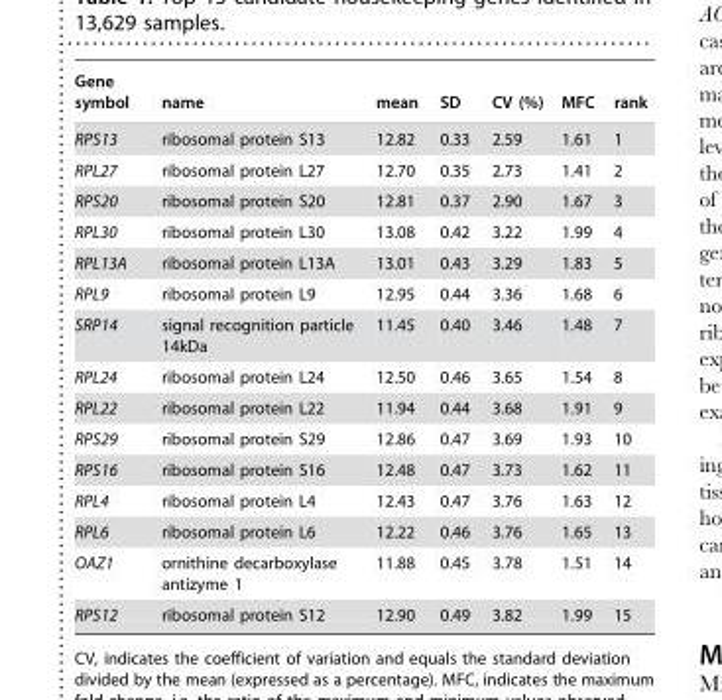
<table><thead><tr><td>Gene symbol</td><td>name</td><td>mean</td><td>SD</td><td>CV (%)</td><td>MFC</td><td>rank</td></tr></thead><tbody><tr><td>RPS13</td><td>ribosomal protein S13</td><td>12.82</td><td>0.33</td><td>2.59</td><td>1.61</td><td>1</td></tr><tr><td>RPL27</td><td>ribosomal protein L27</td><td>12.70</td><td>0.35</td><td>2.73</td><td>1.41</td><td>2</td></tr><tr><td>RPS20</td><td>ribosomal protein S20</td><td>12.81</td><td>0.37</td><td>2.90</td><td>1.67</td><td>3</td></tr><tr><td>RPL30</td><td>ribosomal protein L30</td><td>13.08</td><td>0.42</td><td>3.22</td><td>1.99</td><td>4</td></tr><tr><td>RPL13A</td><td>ribosomal protein L13A</td><td>13.01</td><td>0.43</td><td>3.29</td><td>1.83</td><td>5</td></tr><tr><td>RPL9</td><td>ribosomal protein L9</td><td>12.95</td><td>0.44</td><td>3.36</td><td>1.68</td><td>6</td></tr><tr><td>SRP14</td><td>signal recognition particle 14kDa</td><td>11.45</td><td>0.40</td><td>3.46</td><td>1.48</td><td>7</td></tr><tr><td>RPL24</td><td>ribosomal protein L24</td><td>12.50</td><td>0.46</td><td>3.65</td><td>1.54</td><td>8</td></tr><tr><td>RPL22</td><td>ribosomal protein L22</td><td>11.94</td><td>0.44</td><td>3.68</td><td>1.91</td><td>9</td></tr><tr><td>RPS29</td><td>ribosomal protein S29</td><td>12.86</td><td>0.47</td><td>3.69</td><td>1.93</td><td>10</td></tr><tr><td>RPS16</td><td>ribosomal protein S16</td><td>12.48</td><td>0.47</td><td>3.73</td><td>1.62</td><td>11</td></tr><tr><td>RPL4</td><td>ribosomal protein L4</td><td>12.43</td><td>0.47</td><td>3.76</td><td>1.63</td><td>12</td></tr><tr><td>RPL6</td><td>ribosomal protein L6</td><td>12.22</td><td>0.46</td><td>3.76</td><td>1.65</td><td>13</td></tr><tr><td>OAZ1</td><td>ornithine decarboxylase antizyme 1</td><td>11.88</td><td>0.45</td><td>3.78</td><td>1.51</td><td>14</td></tr><tr><td>RPS12</td><td>ribosomal protein S12</td><td>12.90</td><td>0.49</td><td>3.82</td><td>1.99</td><td>15</td></tr></tbody></table>